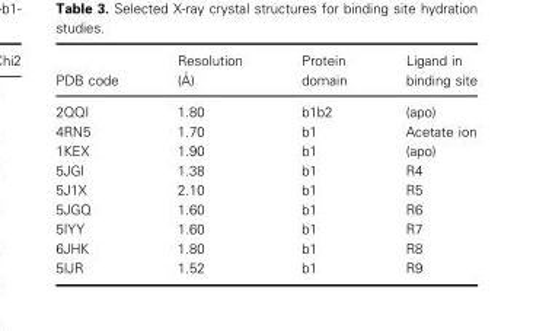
<table><thead><tr><td>PDB code</td><td>Resolution (�A)</td><td>Protein domain</td><td>Ligand in binding site</td></tr></thead><tbody><tr><td>2QQI</td><td>1.80</td><td>b1b2</td><td>(apo)</td></tr><tr><td>4RN5</td><td>1.70</td><td>b1</td><td>Acetate ion</td></tr><tr><td>1KEX</td><td>1.90</td><td>b1</td><td>(apo)</td></tr><tr><td>5JGI</td><td>1.38</td><td>b1</td><td>R4</td></tr><tr><td>5J1X</td><td>2.10</td><td>b1</td><td>R5</td></tr><tr><td>5JGQ</td><td>1.60</td><td>b1</td><td>R6</td></tr><tr><td>5IYY</td><td>1.60</td><td>b1</td><td>R7</td></tr><tr><td>6JHK</td><td>1.80</td><td>b1</td><td>R8</td></tr><tr><td>5IJR</td><td>1.52</td><td>b1</td><td>R9</td></tr></tbody></table>